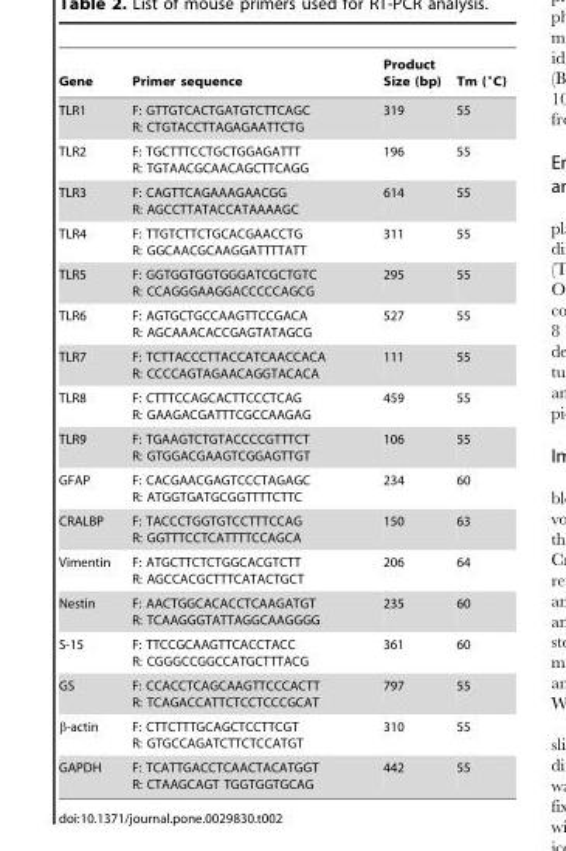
<table><thead><tr><td>Gene</td><td>Primer sequence</td><td>Product Size (bp)</td><td>Tm (°C)</td></tr></thead><tbody><tr><td>TLR1</td><td>F: GTTGTCACTGATGTCTTCAGC R: CTGTACCTTAGAGAATTCTG</td><td>319</td><td>55</td></tr><tr><td>TLR2</td><td>F: TGCTTTCCTGCTGGAGATTT R: TGTAACGCAACAGCTTCAGG</td><td>196</td><td>55</td></tr><tr><td>TLR3</td><td>F: CAGTTCAGAAAGAACGG R: AGCCTTATACCATAAAAGC</td><td>614</td><td>55</td></tr><tr><td>TLR4</td><td>F: TTGTCTTCTGCACGAACCTG R: GGCAACGCAAGGATTTTATT</td><td>311</td><td>55</td></tr><tr><td>TLR5</td><td>F: GGTGGTGGTGGGATCGCTGTC R: CCAGGGAAGGACCCCCAGCG</td><td>295</td><td>55</td></tr><tr><td>TLR6</td><td>F: AGTGCTGCCAAGTTCCGACA R: AGCAAACACCGAGTATAGCG</td><td>527</td><td>55</td></tr><tr><td>TLR7</td><td>F: TCTTACCCTTACCATCAACCACA R: CCCCAGTAGAACAGGTACACA</td><td>111</td><td>55</td></tr><tr><td>TLR8</td><td>F: CTTTCCAGCACTTCCCTCAG R: GAAGACGATTTCGCCAAGAG</td><td>459</td><td>55</td></tr><tr><td>TLR9</td><td>F: TGAAGTCTGTACCCCGTTTCT R: GTGGACGAAGTCGGAGTTGT</td><td>106</td><td>55</td></tr><tr><td>GFAP</td><td>F: CACGAACGAGTCCCTAGAGC R: ATGGTGATGCGGTTTTCTTC</td><td>234</td><td>60</td></tr><tr><td>CRALBP</td><td>F: TACCCTGGTGTCCTTTCCAG R: GGTTTCCTCATTTTCCAGCA</td><td>150</td><td>63</td></tr><tr><td>Vimentin</td><td>F: ATGCTTCTCTGGCACGTCTT R: AGCCACGCTTTCATACTGCT</td><td>206</td><td>64</td></tr><tr><td>Nestin</td><td>F: AACTGGCACACCTCAAGATGT R: TCAAGGGTATTAGGCAAGGGG</td><td>235</td><td>60</td></tr><tr><td>S-15</td><td>F: TTCCGCAAGTTCACCTACC R: CGGGCCGGCCATGCTTTACG</td><td>361</td><td>60</td></tr><tr><td>GS</td><td>F: CCACCTCAGCAAGTTCCCACTT R: TCAGACCATTCTCCTCCCGCAT</td><td>797</td><td>55</td></tr><tr><td>β-actin</td><td>F: CTTCTTTGCAGCTCCTTCGT R: GTGCCAGATCTTCTCCATGT</td><td>310</td><td>55</td></tr><tr><td>GAPDH</td><td>F: TCATTGACCTCAACTACATGGT R: CTAAGCAGT TGGTGGTGCAG</td><td>442</td><td>55</td></tr></tbody></table>